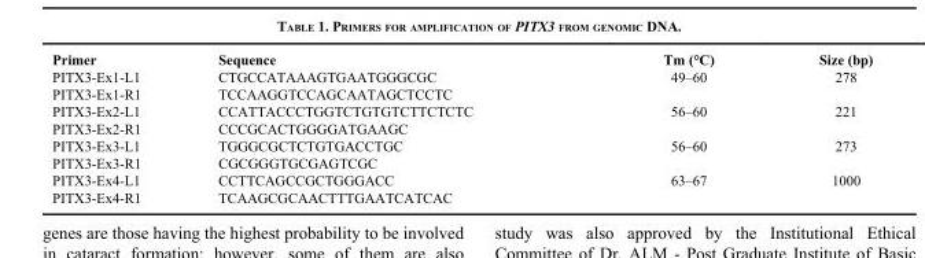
<table><thead><tr><td>Primer</td><td>Sequence</td><td>Tm (°C)</td><td>Size (bp)</td></tr></thead><tbody><tr><td>PITX3-Ex1-L1</td><td>CTGCCATAAAGTGAATGGGCGC</td><td>49–60</td><td>278</td></tr><tr><td>PITX3-Ex1-R1</td><td>TCCAAGGTCCAGCAATAGCTCCTC</td><td></td><td></td></tr><tr><td>PITX3-Ex2-L1</td><td>CCATTACCCTGGTCTGTGTCTTCTCTC</td><td>56–60</td><td>221</td></tr><tr><td>PITX3-Ex2-R1</td><td>CCCGCACTGGGGATGAAGC</td><td></td><td></td></tr><tr><td>PITX3-Ex3-L1</td><td>TGGGCGCTCTGTGACCTGC</td><td>56–60</td><td>273</td></tr><tr><td>PITX3-Ex3-R1</td><td>CGCGGGTGCGAGTCGC</td><td></td><td></td></tr><tr><td>PITX3-Ex4-L1</td><td>CCTTCAGCCGCTGGGACC</td><td>63–67</td><td>1000</td></tr><tr><td>PITX3-Ex4-R1</td><td>TCAAGCGCAACTTTGAATCATCAC</td><td></td><td></td></tr></tbody></table>